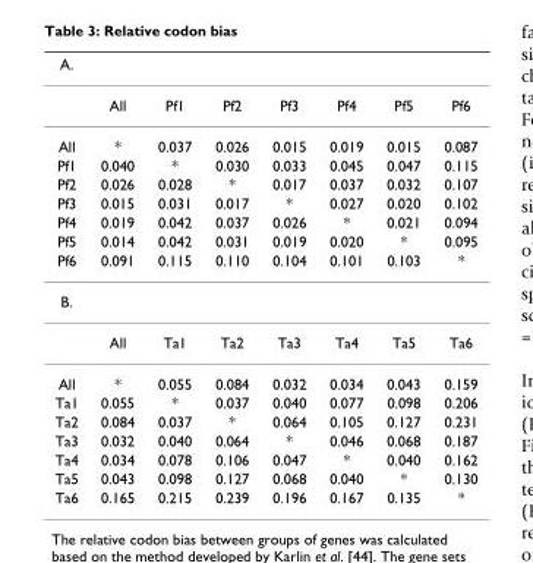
<table><thead><tr><td>A.</td><td></td><td></td><td></td><td></td><td></td><td></td><td></td></tr></thead><tbody><tr><td></td><td>All</td><td>Pf1</td><td>Pf2</td><td>Pf3</td><td>Pf4</td><td>Pf5</td><td>Pf6</td></tr><tr><td>All</td><td>*</td><td>0.037</td><td>0.026</td><td>0.015</td><td>0.019</td><td>0.015</td><td>0.087</td></tr><tr><td>Pf1</td><td>0.040</td><td>*</td><td>0.030</td><td>0.033</td><td>0.045</td><td>0.047</td><td>0.115</td></tr><tr><td>Pf2</td><td>0.026</td><td>0.028</td><td>*</td><td>0.017</td><td>0.037</td><td>0.032</td><td>0.107</td></tr><tr><td>Pf3</td><td>0.015</td><td>0.031</td><td>0.017</td><td>*</td><td>0.027</td><td>0.020</td><td>0.102</td></tr><tr><td>Pf4</td><td>0.019</td><td>0.042</td><td>0.037</td><td>0.026</td><td>*</td><td>0.021</td><td>0.094</td></tr><tr><td>Pf5</td><td>0.014</td><td>0.042</td><td>0.031</td><td>0.019</td><td>0.020</td><td>*</td><td>0.095</td></tr><tr><td>Pf6</td><td>0.091</td><td>0.115</td><td>0.110</td><td>0.104</td><td>0.101</td><td>0.103</td><td>*</td></tr><tr><td colspan="8">B.</td></tr><tr><td></td><td>All</td><td>Ta1</td><td>Ta2</td><td>Ta3</td><td>Ta4</td><td>Ta5</td><td>Ta6</td></tr><tr><td>All</td><td>*</td><td>0.055</td><td>0.084</td><td>0.032</td><td>0.034</td><td>0.043</td><td>0.159</td></tr><tr><td>Ta1</td><td>0.055</td><td>*</td><td>0.037</td><td>0.040</td><td>0.077</td><td>0.098</td><td>0.206</td></tr><tr><td>Ta2</td><td>0.084</td><td>0.037</td><td>*</td><td>0.064</td><td>0.105</td><td>0.127</td><td>0.231</td></tr><tr><td>Ta3</td><td>0.032</td><td>0.040</td><td>0.064</td><td>*</td><td>0.046</td><td>0.068</td><td>0.187</td></tr><tr><td>Ta4</td><td>0.034</td><td>0.078</td><td>0.106</td><td>0.047</td><td>*</td><td>0.040</td><td>0.162</td></tr><tr><td>Ta5</td><td>0.043</td><td>0.098</td><td>0.127</td><td>0.068</td><td>0.040</td><td>*</td><td>0.130</td></tr><tr><td>Ta6</td><td>0.165</td><td>0.215</td><td>0.239</td><td>0.196</td><td>0.167</td><td>0.135</td><td>*</td></tr></tbody></table>